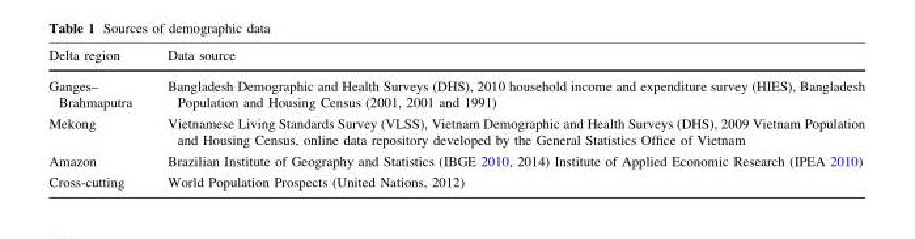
<table><thead><tr><td>Delta region</td><td>Data source</td></tr></thead><tbody><tr><td>Ganges– Brahmaputra</td><td>Bangladesh Demographic and Health Surveys (DHS), 2010 household income and expenditure survey (HIES), Bangladesh Population and Housing Census (2001, 2001 and 1991)</td></tr><tr><td>Mekong</td><td>Vietnamese Living Standards Survey (VLSS), Vietnam Demographic and Health Surveys (DHS), 2009 Vietnam Population and Housing Census, online data repository developed by the General Statistics Office of Vietnam</td></tr><tr><td>Amazon</td><td>Brazilian Institute of Geography and Statistics (IBGE 2010, 2014) Institute of Applied Economic Research (IPEA 2010)</td></tr><tr><td>Cross-cutting</td><td>World Population Prospects (United Nations, 2012)</td></tr></tbody></table>